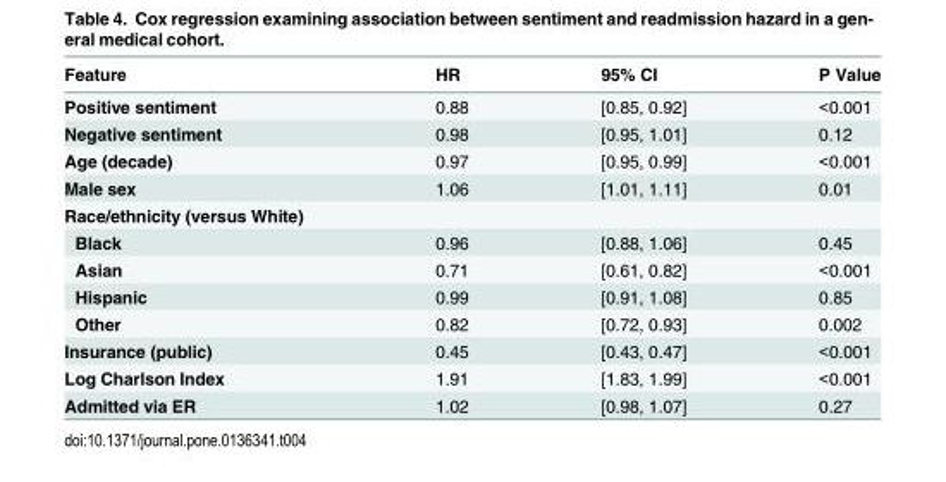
<table><thead><tr><td>Feature</td><td>HR</td><td>95% CI</td><td>P Value</td></tr></thead><tbody><tr><td>Positive sentiment</td><td>0.88</td><td>[0.85, 0.92]</td><td>&lt;0.001</td></tr><tr><td>Negative sentiment</td><td>0.98</td><td>[0.95, 1.01]</td><td>0.12</td></tr><tr><td>Age (decade)</td><td>0.97</td><td>[0.95, 0.99]</td><td>&lt;0.001</td></tr><tr><td>Male sex</td><td>1.06</td><td>[1.01, 1.11]</td><td>0.01</td></tr><tr><td colspan="4">Race/ethnicity (versus White)</td></tr><tr><td>Black</td><td>0.96</td><td>[0.88, 1.06]</td><td>0.45</td></tr><tr><td>Asian</td><td>0.71</td><td>[0.61, 0.82]</td><td>&lt;0.001</td></tr><tr><td>Hispanic</td><td>0.99</td><td>[0.91, 1.08]</td><td>0.85</td></tr><tr><td>Other</td><td>0.82</td><td>[0.72, 0.93]</td><td>0.002</td></tr><tr><td>Insurance (public)</td><td>0.45</td><td>[0.43, 0.47]</td><td>&lt;0.001</td></tr><tr><td>Log Charlson Index</td><td>1.91</td><td>[1.83, 1.99]</td><td>&lt;0.001</td></tr><tr><td>Admitted via ER</td><td>1.02</td><td>[0.98, 1.07]</td><td>0.27</td></tr></tbody></table>